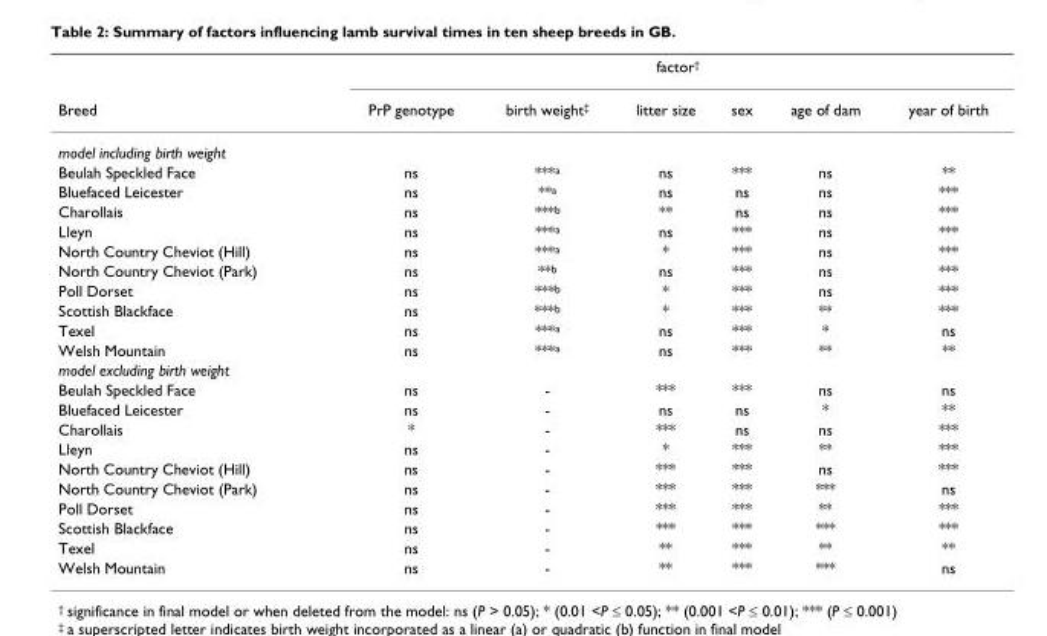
<table><thead><tr><td rowspan="2">Breed</td><td colspan="6">factor<sup>†</sup></td></tr><tr><td>PrP genotype</td><td>birth weight<sup>‡</sup></td><td>litter size</td><td>sex</td><td>age of dam</td><td>year of birth</td></tr></thead><tbody><tr><td colspan="7">model including birth weight</td></tr><tr><td>Beulah Speckled Face</td><td>ns</td><td>***<sup>a</sup></td><td>ns</td><td>***</td><td>ns</td><td>**</td></tr><tr><td>Bluefaced Leicester</td><td>ns</td><td>**<sup>a</sup></td><td>ns</td><td>ns</td><td>ns</td><td>***</td></tr><tr><td>Charollais</td><td>ns</td><td>***<sup>b</sup></td><td>**</td><td>ns</td><td>ns</td><td>***</td></tr><tr><td>Lleyn</td><td>ns</td><td>***<sup>a</sup></td><td>ns</td><td>***</td><td>ns</td><td>***</td></tr><tr><td>North Country Cheviot (Hill)</td><td>ns</td><td>***<sup>a</sup></td><td>*</td><td>***</td><td>ns</td><td>***</td></tr><tr><td>North Country Cheviot (Park)</td><td>ns</td><td>**<sup>b</sup></td><td>ns</td><td>***</td><td>ns</td><td>***</td></tr><tr><td>Poll Dorset</td><td>ns</td><td>***<sup>b</sup></td><td>*</td><td>***</td><td>ns</td><td>***</td></tr><tr><td>Scottish Blackface</td><td>ns</td><td>***<sup>b</sup></td><td>*</td><td>***</td><td>**</td><td>***</td></tr><tr><td>Texel</td><td>ns</td><td>***<sup>a</sup></td><td>ns</td><td>***</td><td>*</td><td>ns</td></tr><tr><td>Welsh Mountain</td><td>ns</td><td>***<sup>a</sup></td><td>ns</td><td>***</td><td>**</td><td>**</td></tr><tr><td colspan="7">model excluding birth weight</td></tr><tr><td>Beulah Speckled Face</td><td>ns</td><td>-</td><td>***</td><td>***</td><td>ns</td><td>ns</td></tr><tr><td>Bluefaced Leicester</td><td>ns</td><td>-</td><td>ns</td><td>ns</td><td>*</td><td>**</td></tr><tr><td>Charollais</td><td>*</td><td>-</td><td>***</td><td>ns</td><td>ns</td><td>***</td></tr><tr><td>Lleyn</td><td>ns</td><td>-</td><td>*</td><td>***</td><td>**</td><td>***</td></tr><tr><td>North Country Cheviot (Hill)</td><td>ns</td><td>-</td><td>***</td><td>***</td><td>ns</td><td>***</td></tr><tr><td>North Country Cheviot (Park)</td><td>ns</td><td>-</td><td>***</td><td>***</td><td>***</td><td>ns</td></tr><tr><td>Poll Dorset</td><td>ns</td><td>-</td><td>***</td><td>***</td><td>**</td><td>***</td></tr><tr><td>Scottish Blackface</td><td>ns</td><td>-</td><td>***</td><td>***</td><td>***</td><td>***</td></tr><tr><td>Texel</td><td>ns</td><td>-</td><td>**</td><td>***</td><td>**</td><td>**</td></tr><tr><td>Welsh Mountain</td><td>ns</td><td>-</td><td>**</td><td>***</td><td>***</td><td>ns</td></tr></tbody></table>